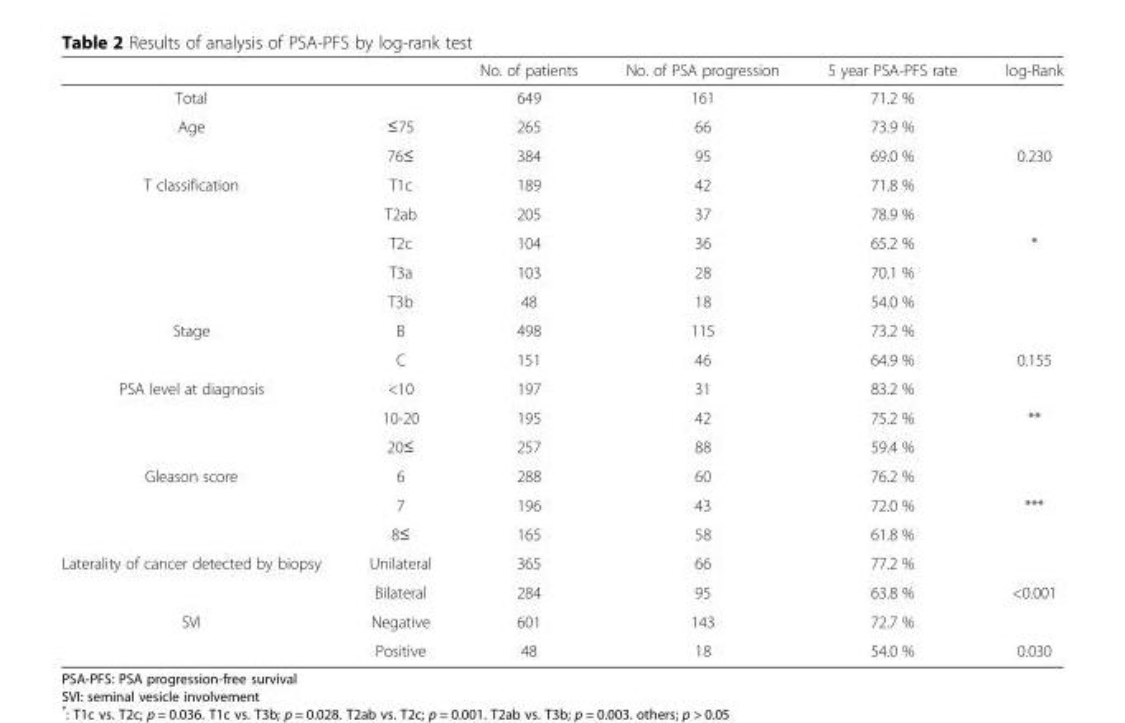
<table><thead><tr><td></td><td></td><td>No. of patients</td><td>No. of PSA progression</td><td>5 year PSA-PFS rate</td><td>log-Rank</td></tr></thead><tbody><tr><td>Total</td><td></td><td>649</td><td>161</td><td>71.2 %</td><td></td></tr><tr><td rowspan="2">Age</td><td>≤75</td><td>265</td><td>66</td><td>73.9 %</td><td></td></tr><tr><td>76≤</td><td>384</td><td>95</td><td>69.0 %</td><td>0.230</td></tr><tr><td rowspan="5">T classification</td><td>T1c</td><td>189</td><td>42</td><td>71.8 %</td><td></td></tr><tr><td>T2ab</td><td>205</td><td>37</td><td>78.9 %</td><td></td></tr><tr><td>T2c</td><td>104</td><td>36</td><td>65.2 %</td><td>*</td></tr><tr><td>T3a</td><td>103</td><td>28</td><td>70.1 %</td><td></td></tr><tr><td>T3b</td><td>48</td><td>18</td><td>54.0 %</td><td></td></tr><tr><td rowspan="2">Stage</td><td>B</td><td>498</td><td>115</td><td>73.2 %</td><td></td></tr><tr><td>C</td><td>151</td><td>46</td><td>64.9 %</td><td>0.155</td></tr><tr><td rowspan="3">PSA level at diagnosis</td><td>&lt;10</td><td>197</td><td>31</td><td>83.2 %</td><td></td></tr><tr><td>10-20</td><td>195</td><td>42</td><td>75.2 %</td><td>**</td></tr><tr><td>20≤</td><td>257</td><td>88</td><td>59.4 %</td><td></td></tr><tr><td rowspan="3">Gleason score</td><td>6</td><td>288</td><td>60</td><td>76.2 %</td><td></td></tr><tr><td>7</td><td>196</td><td>43</td><td>72.0 %</td><td>***</td></tr><tr><td>8≤</td><td>165</td><td>58</td><td>61.8 %</td><td></td></tr><tr><td rowspan="2">Laterality of cancer detected by biopsy</td><td>Unilateral</td><td>365</td><td>66</td><td>77.2 %</td><td></td></tr><tr><td>Bilateral</td><td>284</td><td>95</td><td>63.8 %</td><td>&lt;0.001</td></tr><tr><td rowspan="2">SVI</td><td>Negative</td><td>601</td><td>143</td><td>72.7 %</td><td></td></tr><tr><td>Positive</td><td>48</td><td>18</td><td>54.0 %</td><td>0.030</td></tr></tbody></table>